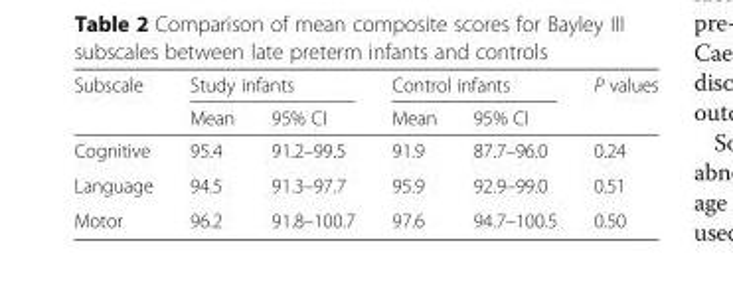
<table><thead><tr><td rowspan="2">Subscale</td><td colspan="2">Study infants</td><td colspan="2">Control infants</td><td rowspan="2">P values</td></tr><tr><td>Mean</td><td>95% CI</td><td>Mean</td><td>95% CI</td></tr></thead><tbody><tr><td>Cognitive</td><td>95.4</td><td>91.2–99.5</td><td>91.9</td><td>87.7–96.0</td><td>0.24</td></tr><tr><td>Language</td><td>94.5</td><td>91.3–97.7</td><td>95.9</td><td>92.9–99.0</td><td>0.51</td></tr><tr><td>Motor</td><td>96.2</td><td>91.8–100.7</td><td>97.6</td><td>94.7–100.5</td><td>0.50</td></tr></tbody></table>